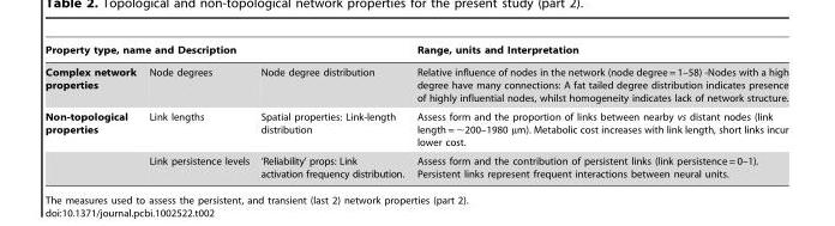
<table><thead><tr><td colspan="3">Property type, name and Description</td><td rowspan="2">Range, units and Interpretation Relative influence of nodes in the network (node degree = 1–58) -Nodes with a high degree have many connections: A fat tailed degree distribution indicates presence of highly influential nodes, whilst homogeneity indicates lack of network structure.</td></tr><tr><td>Complex network properties</td><td>Node degrees</td><td>Node degree distribution</td></tr></thead><tbody><tr><td rowspan="2">Non-topological properties</td><td>Link lengths</td><td>Spatial properties: Link-length distribution</td><td>Assess form and the proportion of links between nearby vs distant nodes (link length = ∼200–1980 µm). Metabolic cost increases with link length, short links incur lower cost.</td></tr><tr><td>Link persistence levels</td><td>‘Reliability’ props: Link activation frequency distribution.</td><td>Assess form and the contribution of persistent links (link persistence = 0–1). Persistent links represent frequent interactions between neural units.</td></tr></tbody></table>